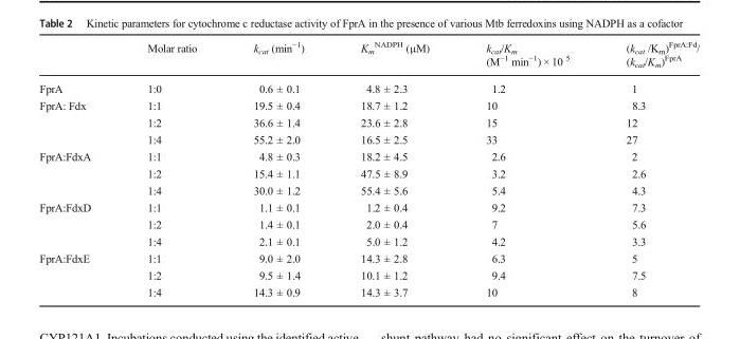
<table><thead><tr><td></td><td>Molar ratio</td><td>k<sub>cat</sub> (min<sup>−1</sup>)</td><td>K<sub>m</sub> <sup>NADPH</sup> (μM)</td><td>k<sub>cat</sub>/K<sub>m</sub> (M<sup>−1</sup> min<sup>−1</sup>) × 10 <sup>5</sup></td><td>(k<sub>cat</sub> /K<sub>m</sub>)<sup>FprA:Fd</sup>/ (k<sub>cat</sub>/K<sub>m</sub>)<sup>FprA</sup></td></tr></thead><tbody><tr><td>FprA</td><td>1:0</td><td>0.6 ± 0.1</td><td>4.8 ± 2.3</td><td>1.2</td><td>1</td></tr><tr><td rowspan="3">FprA: Fdx</td><td>1:1</td><td>19.5 ± 0.4</td><td>18.7 ± 1.2</td><td>10</td><td>8.3</td></tr><tr><td>1:2</td><td>36.6 ± 1.4</td><td>23.6 ± 2.8</td><td>15</td><td>12</td></tr><tr><td>1:4</td><td>55.2 ± 2.0</td><td>16.5 ± 2.5</td><td>33</td><td>27</td></tr><tr><td rowspan="3">FprA:FdxA</td><td>1:1</td><td>4.8 ± 0.3</td><td>18.2 ± 4.5</td><td>2.6</td><td>2</td></tr><tr><td>1:2</td><td>15.4 ± 1.1</td><td>47.5 ± 8.9</td><td>3.2</td><td>2.6</td></tr><tr><td>1:4</td><td>30.0 ± 1.2</td><td>55.4 ± 5.6</td><td>5.4</td><td>4.3</td></tr><tr><td rowspan="3">FprA:FdxD</td><td>1:1</td><td>1.1 ± 0.1</td><td>1.2 ± 0.4</td><td>9.2</td><td>7.3</td></tr><tr><td>1:2</td><td>1.4 ± 0.1</td><td>2.0 ± 0.4</td><td>7</td><td>5.6</td></tr><tr><td>1:4</td><td>2.1 ± 0.1</td><td>5.0 ± 1.2</td><td>4.2</td><td>3.3</td></tr><tr><td rowspan="3">FprA:FdxE</td><td>1:1</td><td>9.0 ± 2.0</td><td>14.3 ± 2.8</td><td>6.3</td><td>5</td></tr><tr><td>1:2</td><td>9.5 ± 1.4</td><td>10.1 ± 1.2</td><td>9.4</td><td>7.5</td></tr><tr><td>1:4</td><td>14.3 ± 0.9</td><td>14.3 ± 3.7</td><td>10</td><td>8</td></tr></tbody></table>